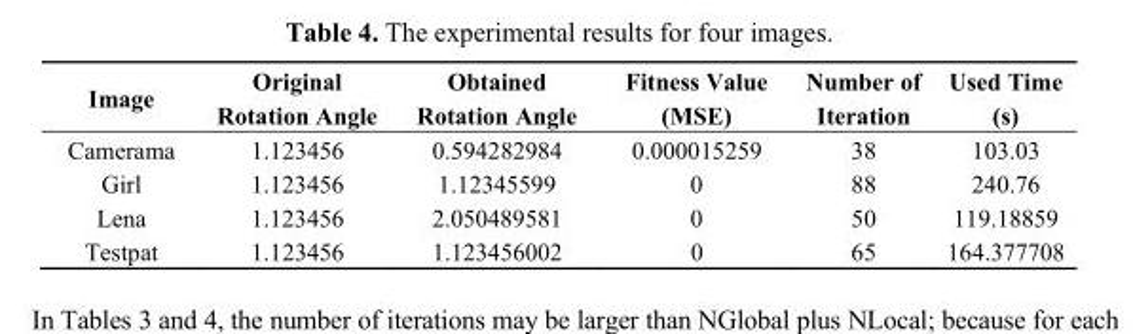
<table><thead><tr><td>Image</td><td>Original Rotation Angle</td><td>Obtained Rotation Angle</td><td>Fitness Value (MSE)</td><td>Number of Iteration</td><td>Used Time (s)</td></tr></thead><tbody><tr><td>Camerama</td><td>1.123456</td><td>0.594282984</td><td>0.000015259</td><td>38</td><td>103.03</td></tr><tr><td>Girl</td><td>1.123456</td><td>1.12345599</td><td>0</td><td>88</td><td>240.76</td></tr><tr><td>Lena</td><td>1.123456</td><td>2.050489581</td><td>0</td><td>50</td><td>119.18859</td></tr><tr><td>Testpat</td><td>1.123456</td><td>1.123456002</td><td>0</td><td>65</td><td>164.377708</td></tr></tbody></table>